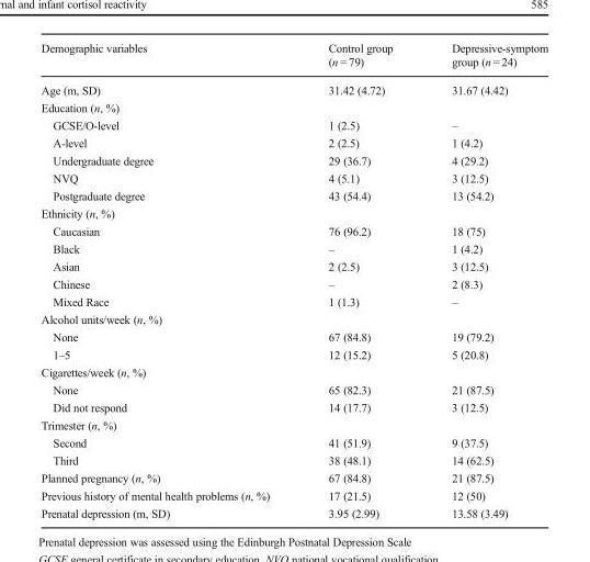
<table><thead><tr><td>Demographic variables</td><td>Control group (n = 79)</td><td>Depressive-symptom group (n = 24)</td></tr></thead><tbody><tr><td>Age (m, SD)</td><td>31.42 (4.72)</td><td>31.67 (4.42)</td></tr><tr><td colspan="3">Education (n, %)</td></tr><tr><td>GCSE/O-level</td><td>1 (2.5)</td><td>–</td></tr><tr><td>A-level</td><td>2 (2.5)</td><td>1 (4.2)</td></tr><tr><td>Undergraduate degree</td><td>29 (36.7)</td><td>4 (29.2)</td></tr><tr><td>NVQ</td><td>4 (5.1)</td><td>3 (12.5)</td></tr><tr><td>Postgraduate degree</td><td>43 (54.4)</td><td>13 (54.2)</td></tr><tr><td colspan="3">Ethnicity (n, %)</td></tr><tr><td>Caucasian</td><td>76 (96.2)</td><td>18 (75)</td></tr><tr><td>Black</td><td>–</td><td>1 (4.2)</td></tr><tr><td>Asian</td><td>2 (2.5)</td><td>3 (12.5)</td></tr><tr><td>Chinese</td><td>–</td><td>2 (8.3)</td></tr><tr><td>Mixed Race</td><td>1 (1.3)</td><td>–</td></tr><tr><td colspan="3">Alcohol units/week (n, %)</td></tr><tr><td>None</td><td>67 (84.8)</td><td>19 (79.2)</td></tr><tr><td>1–5</td><td>12 (15.2)</td><td>5 (20.8)</td></tr><tr><td colspan="3">Cigarettes/week (n, %)</td></tr><tr><td>None</td><td>65 (82.3)</td><td>21 (87.5)</td></tr><tr><td>Did not respond</td><td>14 (17.7)</td><td>3 (12.5)</td></tr><tr><td colspan="3">Trimester (n, %)</td></tr><tr><td>Second</td><td>41 (51.9)</td><td>9 (37.5)</td></tr><tr><td>Third</td><td>38 (48.1)</td><td>14 (62.5)</td></tr><tr><td>Planned pregnancy (n, %)</td><td>67 (84.8)</td><td>21 (87.5)</td></tr><tr><td>Previous history of mental health problems (n, %)</td><td>17 (21.5)</td><td>12 (50)</td></tr><tr><td>Prenatal depression (m, SD)</td><td>3.95 (2.99)</td><td>13.58 (3.49)</td></tr></tbody></table>